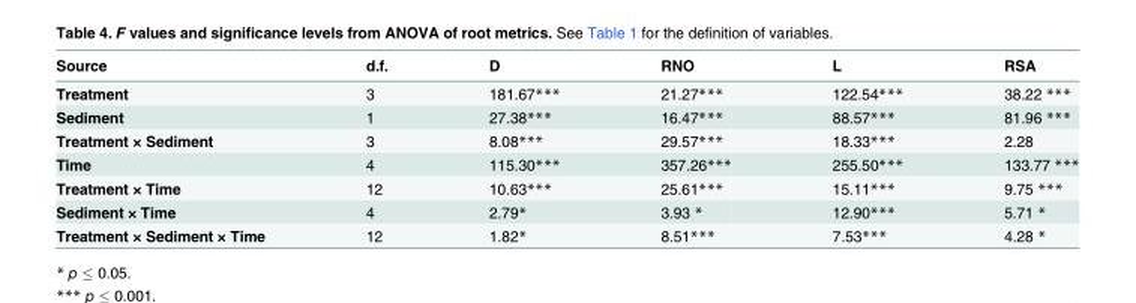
<table><thead><tr><td>Source</td><td>d.f.</td><td>D</td><td>RNO</td><td>L</td><td>RSA</td></tr></thead><tbody><tr><td>Treatment</td><td>3</td><td>181.67***</td><td>21.27***</td><td>122.54***</td><td>38.22 ***</td></tr><tr><td>Sediment</td><td>1</td><td>27.38***</td><td>16.47***</td><td>88.57***</td><td>81.96 ***</td></tr><tr><td>Treatment × Sediment</td><td>3</td><td>8.08***</td><td>29.57***</td><td>18.33***</td><td>2.28</td></tr><tr><td>Time</td><td>4</td><td>115.30***</td><td>357.26***</td><td>255.50***</td><td>133.77 ***</td></tr><tr><td>Treatment × Time</td><td>12</td><td>10.63***</td><td>25.61***</td><td>15.11***</td><td>9.75 ***</td></tr><tr><td>Sediment × Time</td><td>4</td><td>2.79*</td><td>3.93 *</td><td>12.90***</td><td>5.71 *</td></tr><tr><td>Treatment × Sediment × Time</td><td>12</td><td>1.82*</td><td>8.51***</td><td>7.53***</td><td>4.28 *</td></tr></tbody></table>